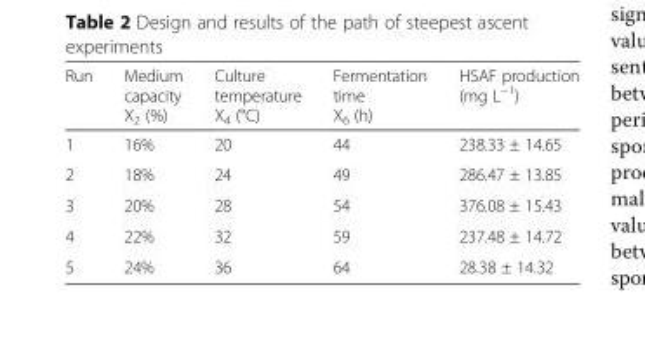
<table><thead><tr><td>Run</td><td>Medium capacity X<sub>2</sub> (%)</td><td>Culture temperature X<sub>4</sub> (°C)</td><td>Fermentation time X<sub>6</sub> (h)</td><td>HSAF production (mg L<sup>−1</sup>)</td></tr></thead><tbody><tr><td>1</td><td>16%</td><td>20</td><td>44</td><td>238.33 ± 14.65</td></tr><tr><td>2</td><td>18%</td><td>24</td><td>49</td><td>286.47 ± 13.85</td></tr><tr><td>3</td><td>20%</td><td>28</td><td>54</td><td>376.08 ± 15.43</td></tr><tr><td>4</td><td>22%</td><td>32</td><td>59</td><td>237.48 ± 14.72</td></tr><tr><td>5</td><td>24%</td><td>36</td><td>64</td><td>28.38 ± 14.32</td></tr></tbody></table>